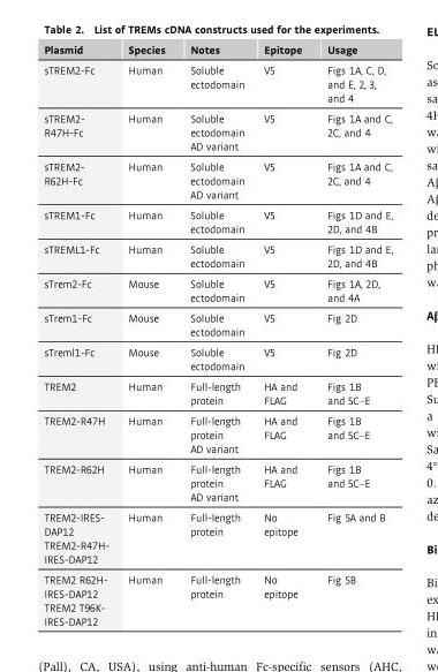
<table><thead><tr><td>Plasmid</td><td>Species</td><td>Notes</td><td>Epitope</td><td>Usage</td></tr></thead><tbody><tr><td>sTREM2-Fc</td><td>Human</td><td>Soluble ectodomain</td><td>V5</td><td>Figs 1A, C, D, and E, 2, 3, and 4</td></tr><tr><td>sTREM2- R47H-Fc</td><td>Human</td><td>Soluble ectodomain AD variant</td><td>V5</td><td>Figs 1A and C, 2C, and 4</td></tr><tr><td>sTREM2- R62H-Fc</td><td>Human</td><td>Soluble ectodomain AD variant</td><td>V5</td><td>Figs 1A and C, 2C, and 4</td></tr><tr><td>sTREM1-Fc</td><td>Human</td><td>Soluble ectodomain</td><td>V5</td><td>Figs 1D and E, 2D, and 4B</td></tr><tr><td>sTREML1-Fc</td><td>Human</td><td>Soluble ectodomain</td><td>V5</td><td>Figs 1D and E, 2D, and 4B</td></tr><tr><td>sTrem2-Fc</td><td>Mouse</td><td>Soluble ectodomain</td><td>V5</td><td>Figs 1A, 2D, and 4A</td></tr><tr><td>sTrem1-Fc</td><td>Mouse</td><td>Soluble ectodomain</td><td>V5</td><td>Fig 2D</td></tr><tr><td>sTreml1-Fc</td><td>Mouse</td><td>Soluble ectodomain</td><td>V5</td><td>Fig 2D</td></tr><tr><td>TREM2</td><td>Human</td><td>Full-length protein</td><td>HA and FLAG</td><td>Figs 1B and 5C–E</td></tr><tr><td>TREM2-R47H</td><td>Human</td><td>Full-length protein AD variant</td><td>HA and FLAG</td><td>Figs 1B and 5C–E</td></tr><tr><td>TREM2-R62H</td><td>Human</td><td>Full-length protein AD variant</td><td>HA and FLAG</td><td>Figs 1B and 5C–E</td></tr><tr><td>TREM2-IRES- DAP12 TREM2-R47H- IRES-DAP12</td><td>Human</td><td>Full-length protein</td><td>No epitope</td><td>Fig 5A and B</td></tr><tr><td>TREM2 R62H- IRES-DAP12 TREM2 T96K- IRES-DAP12</td><td>Human</td><td>Full-length protein</td><td>No epitope</td><td>Fig 5B</td></tr></tbody></table>